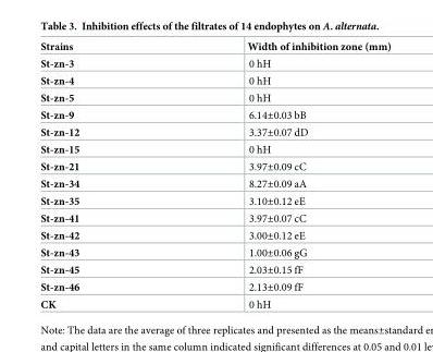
<table><thead><tr><td>Strains</td><td>Width of inhibition zone (mm)</td></tr></thead><tbody><tr><td>St-zn-3</td><td>0 hH</td></tr><tr><td>St-zn-4</td><td>0 hH</td></tr><tr><td>St-zn-5</td><td>0 hH</td></tr><tr><td>St-zn-9</td><td>6.14±0.03 bB</td></tr><tr><td>St-zn-12</td><td>3.37±0.07 dD</td></tr><tr><td>St-zn-15</td><td>0 hH</td></tr><tr><td>St-zn-21</td><td>3.97±0.09 cC</td></tr><tr><td>St-zn-34</td><td>8.27±0.09 aA</td></tr><tr><td>St-zn-35</td><td>3.10±0.12 eE</td></tr><tr><td>St-zn-41</td><td>3.97±0.07 cC</td></tr><tr><td>St-zn-42</td><td>3.00±0.12 eE</td></tr><tr><td>St-zn-43</td><td>1.00±0.06 gG</td></tr><tr><td>St-zn-45</td><td>2.03±0.15 fF</td></tr><tr><td>St-zn-46</td><td>2.13±0.09 fF</td></tr><tr><td>CK</td><td>0 hH</td></tr></tbody></table>